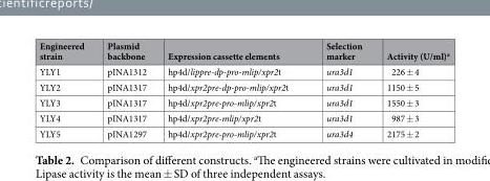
<table><thead><tr><td>Engineered strain</td><td>Plasmid backbone</td><td>Expression cassette elements</td><td>Selection marker</td><td>Activity (U/ml)<sup>a</sup></td></tr></thead><tbody><tr><td>YLY1</td><td>pINA1312</td><td>hp4d/lippre-dp-pro-mlip/xpr2t</td><td>ura3d1</td><td>226 ± 4</td></tr><tr><td>YLY2</td><td>pINA1317</td><td>hp4d/xpr2pre-dp-pro-mlip/xpr2t</td><td>ura3d1</td><td>1150 ± 5</td></tr><tr><td>YLY3</td><td>pINA1317</td><td>hp4d/xpr2pre-pro-mlip/xpr2t</td><td>ura3d1</td><td>1550 ± 3</td></tr><tr><td>YLY4</td><td>pINA1317</td><td>hp4d/xpr2pre-mlip/xpr2t</td><td>ura3d1</td><td>987 ± 3</td></tr><tr><td>YLY5</td><td>pINA1297</td><td>hp4d/xpr2pre-pro-mlip/xpr2t</td><td>ura3d4</td><td>2175 ± 2</td></tr></tbody></table>